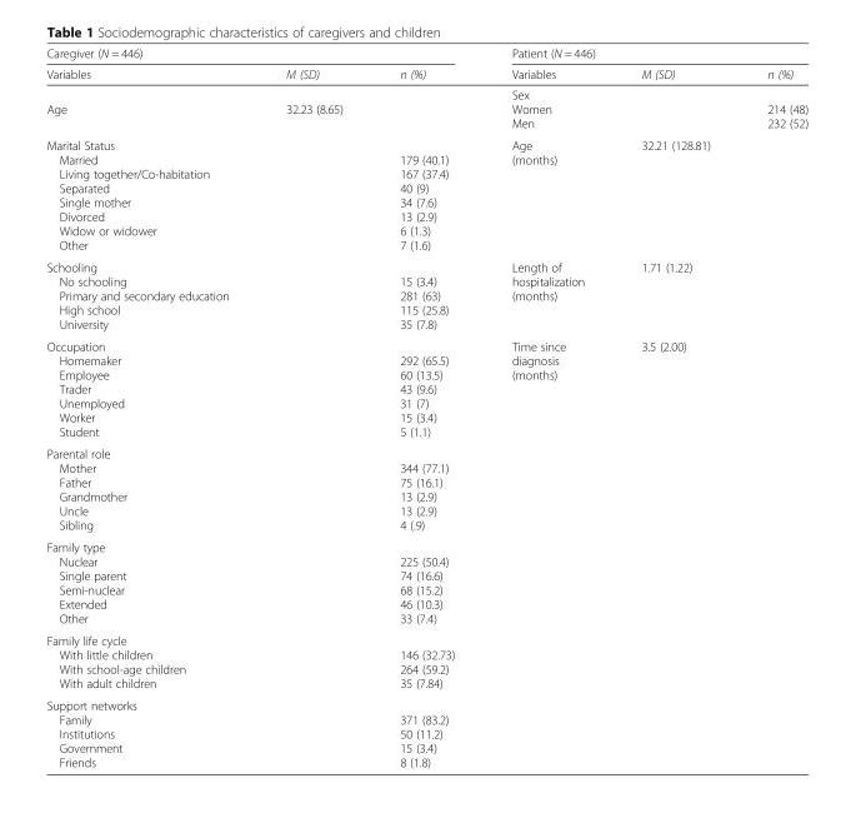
<table><thead><tr><td colspan="3">Caregiver (N = 446)</td><td colspan="3">Patient (N = 446)</td></tr><tr><td>Variables</td><td>M (SD)</td><td>n (%)</td><td>Variables</td><td>M (SD)</td><td>n (%)</td></tr></thead><tbody><tr><td>Age</td><td>32.23 (8.65)</td><td></td><td>Sex Women Men</td><td></td><td>214 (48) 232 (52)</td></tr><tr><td>Marital Status Married Living together/Co-habitation Separated Single mother Divorced Widow or widower Other</td><td></td><td>179 (40.1) 167 (37.4) 40 (9) 34 (7.6) 13 (2.9) 6 (1.3) 7 (1.6)</td><td>Age (months)</td><td>32.21 (128.81)</td><td></td></tr><tr><td>Schooling No schooling Primary and secondary education High school University</td><td></td><td>15 (3.4) 281 (63) 115 (25.8) 35 (7.8)</td><td>Length of hospitalization (months)</td><td>1.71 (1.22)</td><td></td></tr><tr><td>Occupation Homemaker Employee Trader Unemployed Worker Student</td><td></td><td>292 (65.5) 60 (13.5) 43 (9.6) 31 (7) 15 (3.4) 5 (1.1)</td><td>Time since diagnosis (months)</td><td>3.5 (2.00)</td><td></td></tr><tr><td>Parental role Mother Father Grandmother Uncle Sibling</td><td></td><td>344 (77.1) 75 (16.1) 13 (2.9) 13 (2.9) 4 (.9)</td><td></td><td></td><td></td></tr><tr><td>Family type Nuclear Single parent Semi-nuclear Extended Other</td><td></td><td>225 (50.4) 74 (16.6) 68 (15.2) 46 (10.3) 33 (7.4)</td><td></td><td></td><td></td></tr><tr><td>Family life cycle With little children With school-age children With adult children</td><td></td><td>146 (32.73) 264 (59.2) 35 (7.84)</td><td></td><td></td><td></td></tr><tr><td>Support networks Family Institutions Government Friends</td><td></td><td>371 (83.2) 50 (11.2) 15 (3.4) 8 (1.8)</td><td></td><td></td><td></td></tr></tbody></table>